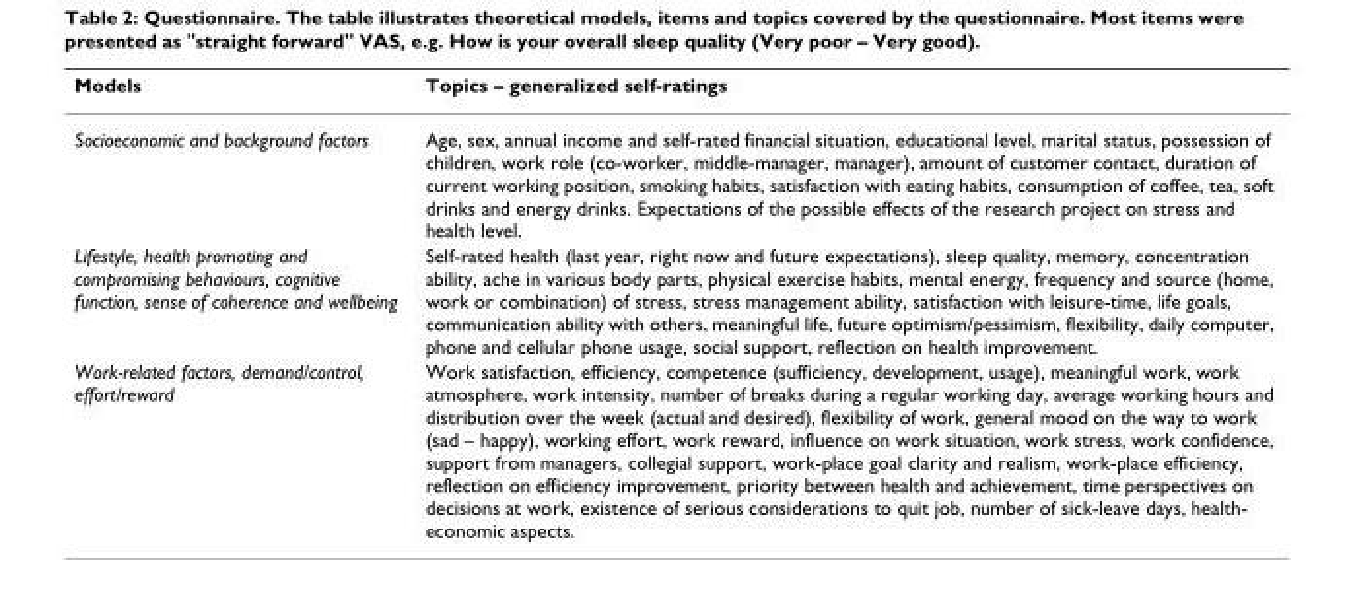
<table><thead><tr><td>Models</td><td>Topics – generalized self-ratings</td></tr></thead><tbody><tr><td>Socioeconomic and background factors</td><td>Age, sex, annual income and self-rated financial situation, educational level, marital status, possession of children, work role (co-worker, middle-manager, manager), amount of customer contact, duration of current working position, smoking habits, satisfaction with eating habits, consumption of coffee, tea, soft drinks and energy drinks. Expectations of the possible effects of the research project on stress and health level.</td></tr><tr><td>Lifestyle, health promoting and compromising behaviours, cognitive function, sense of coherence and wellbeing</td><td>Self-rated health (last year, right now and future expectations), sleep quality, memory, concentration ability, ache in various body parts, physical exercise habits, mental energy, frequency and source (home, work or combination) of stress, stress management ability, satisfaction with leisure-time, life goals, communication ability with others, meaningful life, future optimism/pessimism, flexibility, daily computer, phone and cellular phone usage, social support, reflection on health improvement.</td></tr><tr><td>Work-related factors, demand/control, effort/reward</td><td>Work satisfaction, efficiency, competence (sufficiency, development, usage), meaningful work, work atmosphere, work intensity, number of breaks during a regular working day, average working hours and distribution over the week (actual and desired), flexibility of work, general mood on the way to work (sad – happy), working effort, work reward, influence on work situation, work stress, work confidence, support from managers, collegial support, work-place goal clarity and realism, work-place efficiency, reflection on efficiency improvement, priority between health and achievement, time perspectives on decisions at work, existence of serious considerations to quit job, number of sick-leave days, health- economic aspects.</td></tr></tbody></table>